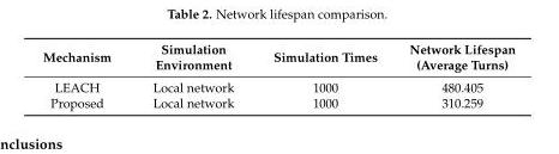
<table><thead><tr><td>Mechanism</td><td>Simulation Environment</td><td>Simulation Times</td><td>Network Lifespan (Average Turns)</td></tr></thead><tbody><tr><td>LEACH</td><td>Local network</td><td>1000</td><td>480.405</td></tr><tr><td>Proposed</td><td>Local network</td><td>1000</td><td>310.259</td></tr></tbody></table>